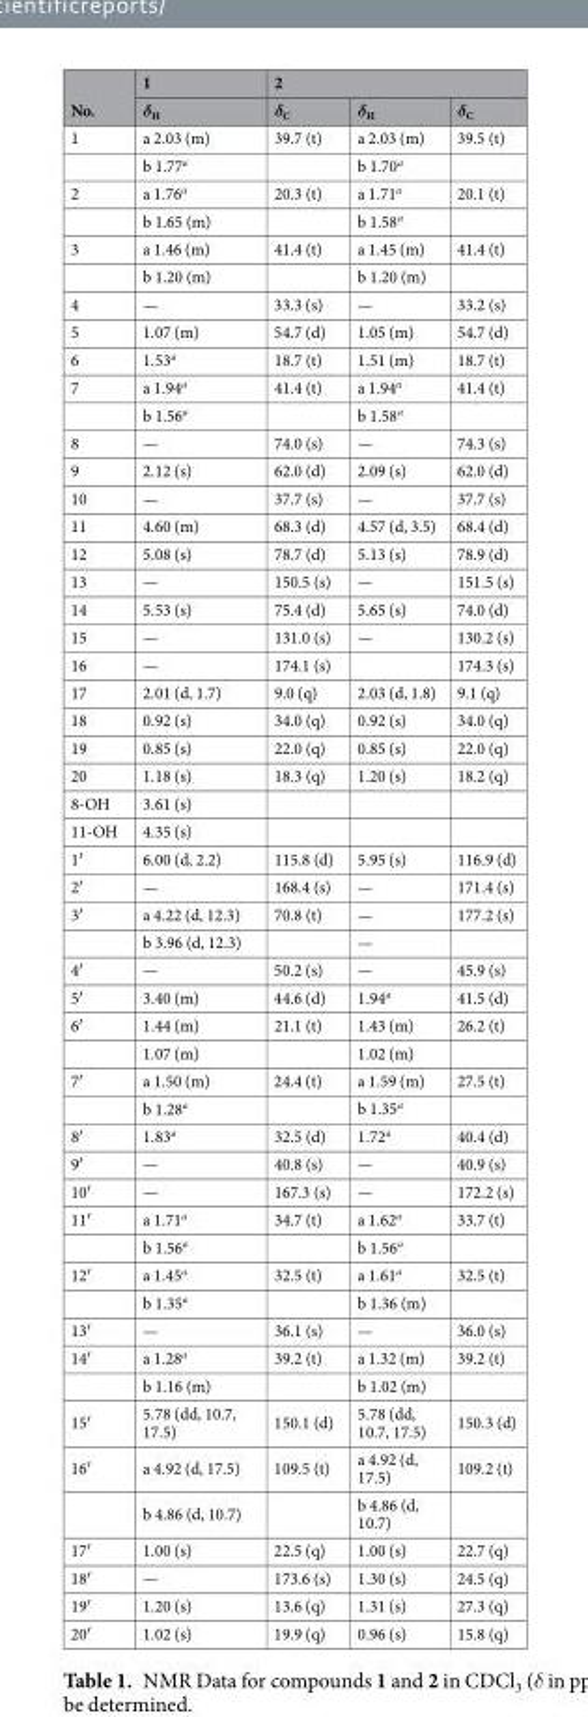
<table><thead><tr><td rowspan="2">No.</td><td rowspan="2">1 δH</td><td colspan="3">2</td></tr><tr><td>δ<sub>C</sub></td><td>δ<sub>H</sub></td><td>δ<sub>C</sub></td></tr></thead><tbody><tr><td rowspan="2">1</td><td>a 2.03 (m)</td><td>39.7 (t)</td><td>a 2.03 (m)</td><td>39.5 (t)</td></tr><tr><td>b 1.77<sup>a</sup></td><td></td><td>b 1.70<sup>a</sup></td><td></td></tr><tr><td rowspan="2">2</td><td>a 1.76<sup>a</sup></td><td>20.3 (t)</td><td>a 1.71<sup>a</sup></td><td>20.1 (t)</td></tr><tr><td>b 1.65 (m)</td><td></td><td>b 1.58<sup>a</sup></td><td></td></tr><tr><td rowspan="2">3</td><td>a 1.46 (m)</td><td>41.4 (t)</td><td>a 1.45 (m)</td><td>41.4 (t)</td></tr><tr><td>b 1.20 (m)</td><td></td><td>b 1.20 (m)</td><td></td></tr><tr><td>4</td><td>—</td><td>33.3 (s)</td><td>—</td><td>33.2 (s)</td></tr><tr><td>5</td><td>1.07 (m)</td><td>54.7 (d)</td><td>1.05 (m)</td><td>54.7 (d)</td></tr><tr><td>6</td><td>1.53<sup>a</sup></td><td>18.7 (t)</td><td>1.51 (m)</td><td>18.7 (t)</td></tr><tr><td rowspan="2">7</td><td>a 1.94<sup>a</sup></td><td>41.4 (t)</td><td>a 1.94<sup>a</sup></td><td>41.4 (t)</td></tr><tr><td>b 1.56<sup>a</sup></td><td></td><td>b 1.58<sup>a</sup></td><td></td></tr><tr><td>8</td><td>—</td><td>74.0 (s)</td><td>—</td><td>74.3 (s)</td></tr><tr><td>9</td><td>2.12 (s)</td><td>62.0 (d)</td><td>2.09 (s)</td><td>62.0 (d)</td></tr><tr><td>10</td><td>—</td><td>37.7 (s)</td><td>—</td><td>37.7 (s)</td></tr><tr><td>11</td><td>4.60 (m)</td><td>68.3 (d)</td><td>4.57 (d, 3.5)</td><td>68.4 (d)</td></tr><tr><td>12</td><td>5.08 (s)</td><td>78.7 (d)</td><td>5.13 (s)</td><td>78.9 (d)</td></tr><tr><td>13</td><td>—</td><td>150.5 (s)</td><td>—</td><td>151.5 (s)</td></tr><tr><td>14</td><td>5.53 (s)</td><td>75.4 (d)</td><td>5.65 (s)</td><td>74.0 (d)</td></tr><tr><td>15</td><td>—</td><td>131.0 (s)</td><td>—</td><td>130.2 (s)</td></tr><tr><td>16</td><td>—</td><td>174.1 (s)</td><td></td><td>174.3 (s)</td></tr><tr><td>17</td><td>2.01 (d, 1.7)</td><td>9.0 (q)</td><td>2.03 (d, 1.8)</td><td>9.1 (q)</td></tr><tr><td>18</td><td>0.92 (s)</td><td>34.0 (q)</td><td>0.92 (s)</td><td>34.0 (q)</td></tr><tr><td>19</td><td>0.85 (s)</td><td>22.0 (q)</td><td>0.85 (s)</td><td>22.0 (q)</td></tr><tr><td>20</td><td>1.18 (s)</td><td>18.3 (q)</td><td>1.20 (s)</td><td>18.2 (q)</td></tr><tr><td>8-OH</td><td>3.61 (s)</td><td></td><td></td><td></td></tr><tr><td>11-OH</td><td>4.35 (s)</td><td></td><td></td><td></td></tr><tr><td>1′</td><td>6.00 (d, 2.2)</td><td>115.8 (d)</td><td>5.95 (s)</td><td>116.9 (d)</td></tr><tr><td>2′</td><td>—</td><td>168.4 (s)</td><td>—</td><td>171.4 (s)</td></tr><tr><td rowspan="2">3′</td><td>a 4.22 (d, 12.3)</td><td>70.8 (t)</td><td>—</td><td>177.2 (s)</td></tr><tr><td>b 3.96 (d, 12.3)</td><td></td><td>—</td><td></td></tr><tr><td>4′</td><td>—</td><td>50.2 (s)</td><td>—</td><td>45.9 (s)</td></tr><tr><td>5′</td><td>3.40 (m)</td><td>44.6 (d)</td><td>1.94<sup>a</sup></td><td>41.5 (d)</td></tr><tr><td rowspan="2">6′</td><td>1.44 (m)</td><td>21.1 (t)</td><td>1.43 (m)</td><td>26.2 (t)</td></tr><tr><td>1.07 (m)</td><td></td><td>1.02 (m)</td><td></td></tr><tr><td rowspan="2">7′</td><td>a 1.50 (m)</td><td>24.4 (t)</td><td>a 1.59 (m)</td><td>27.5 (t)</td></tr><tr><td>b 1.28<sup>a</sup></td><td></td><td>b 1.35<sup>a</sup></td><td></td></tr><tr><td>8′</td><td>1.83<sup>a</sup></td><td>32.5 (d)</td><td>1.72<sup>a</sup></td><td>40.4 (d)</td></tr><tr><td>9′</td><td>—</td><td>40.8 (s)</td><td>—</td><td>40.9 (s)</td></tr><tr><td>10′</td><td>—</td><td>167.3 (s)</td><td>—</td><td>172.2 (s)</td></tr><tr><td rowspan="2">11′</td><td>a 1.71<sup>a</sup></td><td>34.7 (t)</td><td>a 1.62<sup>a</sup></td><td>33.7 (t)</td></tr><tr><td>b 1.56<sup>a</sup></td><td></td><td>b 1.56<sup>a</sup></td><td></td></tr><tr><td rowspan="2">12′</td><td>a 1.45<sup>a</sup></td><td>32.5 (t)</td><td>a 1.61<sup>a</sup></td><td>32.5 (t)</td></tr><tr><td>b 1.35<sup>a</sup></td><td></td><td>b 1.36 (m)</td><td></td></tr><tr><td>13′</td><td>—</td><td>36.1 (s)</td><td>—</td><td>36.0 (s)</td></tr><tr><td rowspan="2">14′</td><td>a 1.28<sup>a</sup></td><td>39.2 (t)</td><td>a 1.32 (m)</td><td>39.2 (t)</td></tr><tr><td>b 1.16 (m)</td><td></td><td>b 1.02 (m)</td><td></td></tr><tr><td>15′</td><td>5.78 (dd, 10.7, 17.5)</td><td>150.1 (d)</td><td>5.78 (dd, 10.7, 17.5)</td><td>150.3 (d)</td></tr><tr><td rowspan="2">16′</td><td>a 4.92 (d, 17.5)</td><td>109.5 (t)</td><td>a 4.92 (d, 17.5)</td><td>109.2 (t)</td></tr><tr><td>b 4.86 (d, 10.7)</td><td></td><td>b 4.86 (d, 10.7)</td><td></td></tr><tr><td>17′</td><td>1.00 (s)</td><td>22.5 (q)</td><td>1.00 (s)</td><td>22.7 (q)</td></tr><tr><td>18′</td><td>—</td><td>173.6 (s)</td><td>1.30 (s)</td><td>24.5 (q)</td></tr><tr><td>19′</td><td>1.20 (s)</td><td>13.6 (q)</td><td>1.31 (s)</td><td>27.3 (q)</td></tr><tr><td>20′</td><td>1.02 (s)</td><td>19.9 (q)</td><td>0.96 (s)</td><td>15.8 (q)</td></tr></tbody></table>